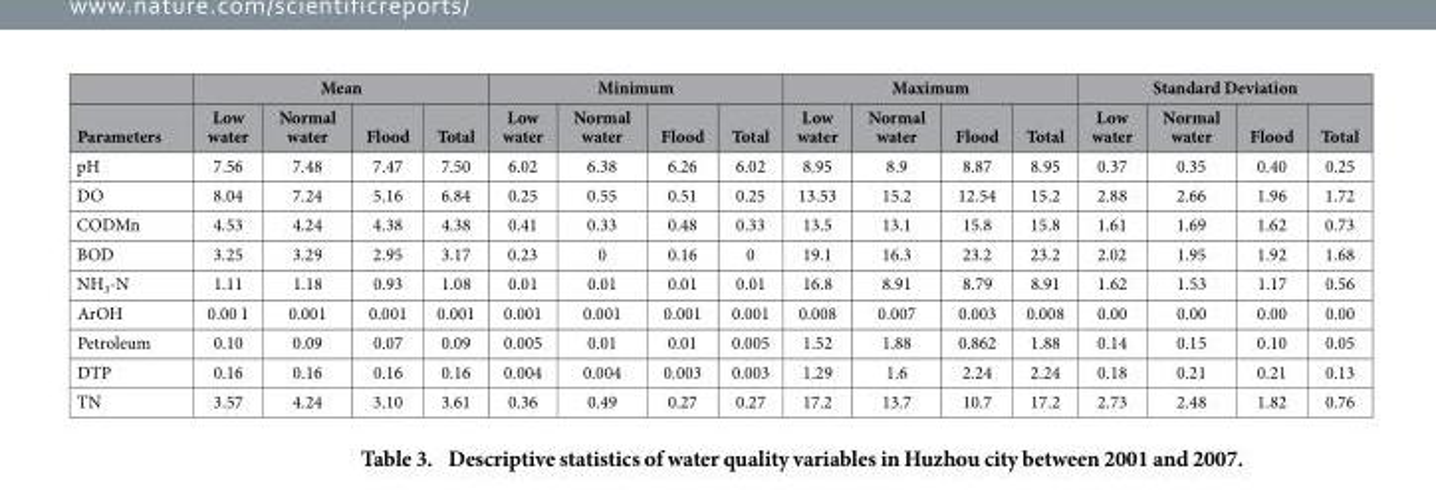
<table><thead><tr><td rowspan="2">Parameters</td><td colspan="4">Mean</td><td colspan="4">Minimum</td><td colspan="4">Maximum</td><td colspan="4">Standard Deviation</td></tr><tr><td>Low water</td><td>Normal water</td><td>Flood</td><td>Total</td><td>Low water</td><td>Normal water</td><td>Flood</td><td>Total</td><td>Low water</td><td>Normal water</td><td>Flood</td><td>Total</td><td>Low water</td><td>Normal water</td><td>Flood</td><td>Total</td></tr></thead><tbody><tr><td>pH</td><td>7.56</td><td>7.48</td><td>7.47</td><td>7.50</td><td>6.02</td><td>6.38</td><td>6.26</td><td>6.02</td><td>8.95</td><td>8.9</td><td>8.87</td><td>8.95</td><td>0.37</td><td>0.35</td><td>0.40</td><td>0.25</td></tr><tr><td>DO</td><td>8.04</td><td>7.24</td><td>5.16</td><td>6.84</td><td>0.25</td><td>0.55</td><td>0.51</td><td>0.25</td><td>13.53</td><td>15.2</td><td>12.54</td><td>15.2</td><td>2.88</td><td>2.66</td><td>1.96</td><td>1.72</td></tr><tr><td>CODMn</td><td>4.53</td><td>4.24</td><td>4.38</td><td>4.38</td><td>0.41</td><td>0.33</td><td>0.48</td><td>0.33</td><td>13.5</td><td>13.1</td><td>15.8</td><td>15.8</td><td>1.61</td><td>1.69</td><td>1.62</td><td>0.73</td></tr><tr><td>BOD</td><td>3.25</td><td>3.29</td><td>2.95</td><td>3.17</td><td>0.23</td><td>0</td><td>0.16</td><td>0</td><td>19.1</td><td>16.3</td><td>23.2</td><td>23.2</td><td>2.02</td><td>1.95</td><td>1.92</td><td>1.68</td></tr><tr><td>NH<sub>3</sub>-N</td><td>1.11</td><td>1.18</td><td>0.93</td><td>1.08</td><td>0.01</td><td>0.01</td><td>0.01</td><td>0.01</td><td>16.8</td><td>8.91</td><td>8.79</td><td>8.91</td><td>1.62</td><td>1.53</td><td>1.17</td><td>0.56</td></tr><tr><td>ArOH</td><td>0.00 1</td><td>0.001</td><td>0.001</td><td>0.001</td><td>0.001</td><td>0.001</td><td>0.001</td><td>0.001</td><td>0.008</td><td>0.007</td><td>0.003</td><td>0.008</td><td>0.00</td><td>0.00</td><td>0.00</td><td>0.00</td></tr><tr><td>Petroleum</td><td>0.10</td><td>0.09</td><td>0.07</td><td>0.09</td><td>0.005</td><td>0.01</td><td>0.01</td><td>0.005</td><td>1.52</td><td>1.88</td><td>0.862</td><td>1.88</td><td>0.14</td><td>0.15</td><td>0.10</td><td>0.05</td></tr><tr><td>DTP</td><td>0.16</td><td>0.16</td><td>0.16</td><td>0.16</td><td>0.004</td><td>0.004</td><td>0.003</td><td>0.003</td><td>1.29</td><td>1.6</td><td>2.24</td><td>2.24</td><td>0.18</td><td>0.21</td><td>0.21</td><td>0.13</td></tr><tr><td>TN</td><td>3.57</td><td>4.24</td><td>3.10</td><td>3.61</td><td>0.36</td><td>0.49</td><td>0.27</td><td>0.27</td><td>17.2</td><td>13.7</td><td>10.7</td><td>17.2</td><td>2.73</td><td>2.48</td><td>1.82</td><td>0.76</td></tr></tbody></table>